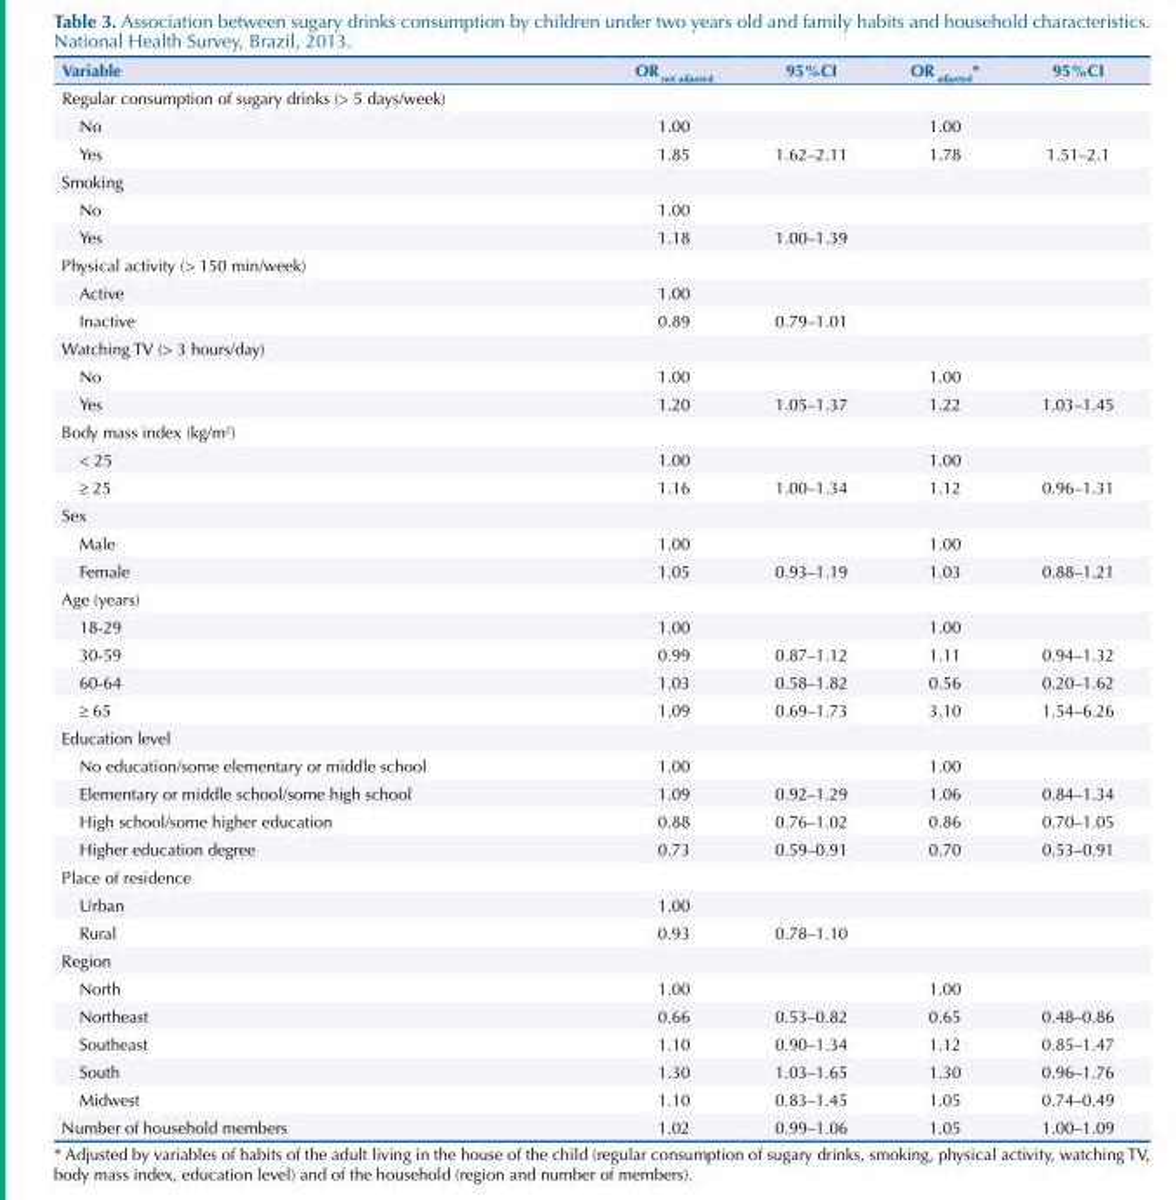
<table><thead><tr><td>Variable</td><td>OR <sub>not adjusted</sub></td><td>95%CI</td><td>OR <sub>adjusted</sub>*</td><td>95%CI</td></tr></thead><tbody><tr><td colspan="5">Regular consumption of sugary drinks (&gt; 5 days/week)</td></tr><tr><td>No</td><td>1.00</td><td></td><td>1.00</td><td></td></tr><tr><td>Yes</td><td>1.85</td><td>1.62–2.11</td><td>1.78</td><td>1.51–2.1</td></tr><tr><td colspan="5">Smoking</td></tr><tr><td>No</td><td>1.00</td><td></td><td></td><td></td></tr><tr><td>Yes</td><td>1.18</td><td>1.00–1.39</td><td></td><td></td></tr><tr><td colspan="5">Physical activity (&gt; 150 min/week)</td></tr><tr><td>Active</td><td>1.00</td><td></td><td></td><td></td></tr><tr><td>Inactive</td><td>0.89</td><td>0.79–1.01</td><td></td><td></td></tr><tr><td colspan="5">Watching TV (&gt; 3 hours/day)</td></tr><tr><td>No</td><td>1.00</td><td></td><td>1.00</td><td></td></tr><tr><td>Yes</td><td>1.20</td><td>1.05–1.37</td><td>1.22</td><td>1.03–1.45</td></tr><tr><td colspan="5">Body mass index (kg/m<sup>2</sup>)</td></tr><tr><td>&lt; 25</td><td>1.00</td><td></td><td>1.00</td><td></td></tr><tr><td>≥ 25</td><td>1.16</td><td>1.00–1.34</td><td>1.12</td><td>0.96–1.31</td></tr><tr><td colspan="5">Sex</td></tr><tr><td>Male</td><td>1.00</td><td></td><td>1.00</td><td></td></tr><tr><td>Female</td><td>1.05</td><td>0.93–1.19</td><td>1.03</td><td>0.88–1.21</td></tr><tr><td colspan="5">Age (years)</td></tr><tr><td>18-29</td><td>1.00</td><td></td><td>1.00</td><td></td></tr><tr><td>30-59</td><td>0.99</td><td>0.87–1.12</td><td>1.11</td><td>0.94–1.32</td></tr><tr><td>60-64</td><td>1.03</td><td>0.58–1.82</td><td>0.56</td><td>0.20–1.62</td></tr><tr><td>≥ 65</td><td>1.09</td><td>0.69–1.73</td><td>3.10</td><td>1.54–6.26</td></tr><tr><td colspan="5">Education level</td></tr><tr><td>No education/some elementary or middle school</td><td>1.00</td><td></td><td>1.00</td><td></td></tr><tr><td>Elementary or middle school/some high school</td><td>1.09</td><td>0.92–1.29</td><td>1.06</td><td>0.84–1.34</td></tr><tr><td>High school/some higher education</td><td>0.88</td><td>0.76–1.02</td><td>0.86</td><td>0.70–1.05</td></tr><tr><td>Higher education degree</td><td>0.73</td><td>0.59–0.91</td><td>0.70</td><td>0.53–0.91</td></tr><tr><td colspan="5">Place of residence</td></tr><tr><td>Urban</td><td>1.00</td><td></td><td></td><td></td></tr><tr><td>Rural</td><td>0.93</td><td>0.78–1.10</td><td></td><td></td></tr><tr><td colspan="5">Region</td></tr><tr><td>North</td><td>1.00</td><td></td><td>1.00</td><td></td></tr><tr><td>Northeast</td><td>0.66</td><td>0.53–0.82</td><td>0.65</td><td>0.48–0.86</td></tr><tr><td>Southeast</td><td>1.10</td><td>0.90–1.34</td><td>1.12</td><td>0.85–1.47</td></tr><tr><td>South</td><td>1.30</td><td>1.03–1.65</td><td>1.30</td><td>0.96–1.76</td></tr><tr><td>Midwest</td><td>1.10</td><td>0.83–1.45</td><td>1.05</td><td>0.74–0.49</td></tr><tr><td>Number of household members</td><td>1.02</td><td>0.99–1.06</td><td>1.05</td><td>1.00–1.09</td></tr></tbody></table>